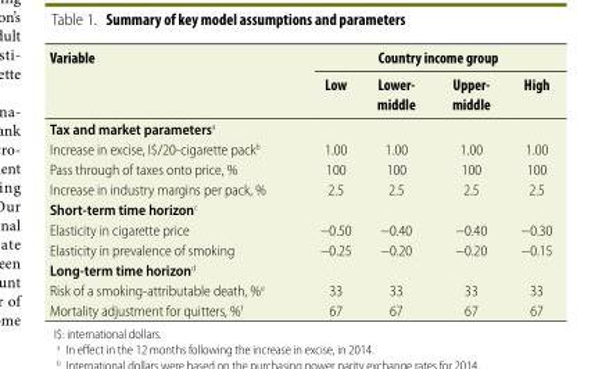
<table><thead><tr><td rowspan="2">Variable</td><td colspan="4">Country income group</td></tr><tr><td>Low</td><td>Lower- middle</td><td>Upper- middle</td><td>High</td></tr></thead><tbody><tr><td colspan="5">Tax and market parameters<sup>a</sup></td></tr><tr><td>Increase in excise, I$/20-cigarette pack<sup>b</sup></td><td>1.00</td><td>1.00</td><td>1.00</td><td>1.00</td></tr><tr><td>Pass through of taxes onto price, %</td><td>100</td><td>100</td><td>100</td><td>100</td></tr><tr><td>Increase in industry margins per pack, %</td><td>2.5</td><td>2.5</td><td>2.5</td><td>2.5</td></tr><tr><td colspan="5">Short-term time horizon<sup>c</sup></td></tr><tr><td>Elasticity in cigarette price</td><td>−0.50</td><td>−0.40</td><td>−0.40</td><td>−0.30</td></tr><tr><td>Elasticity in prevalence of smoking</td><td>−0.25</td><td>−0.20</td><td>−0.20</td><td>−0.15</td></tr><tr><td colspan="5">Long-term time horizon<sup>d</sup></td></tr><tr><td>Risk of a smoking-attributable death, %<sup>e</sup></td><td>33</td><td>33</td><td>33</td><td>33</td></tr><tr><td>Mortality adjustment for quitters, %<sup>f</sup></td><td>67</td><td>67</td><td>67</td><td>67</td></tr></tbody></table>